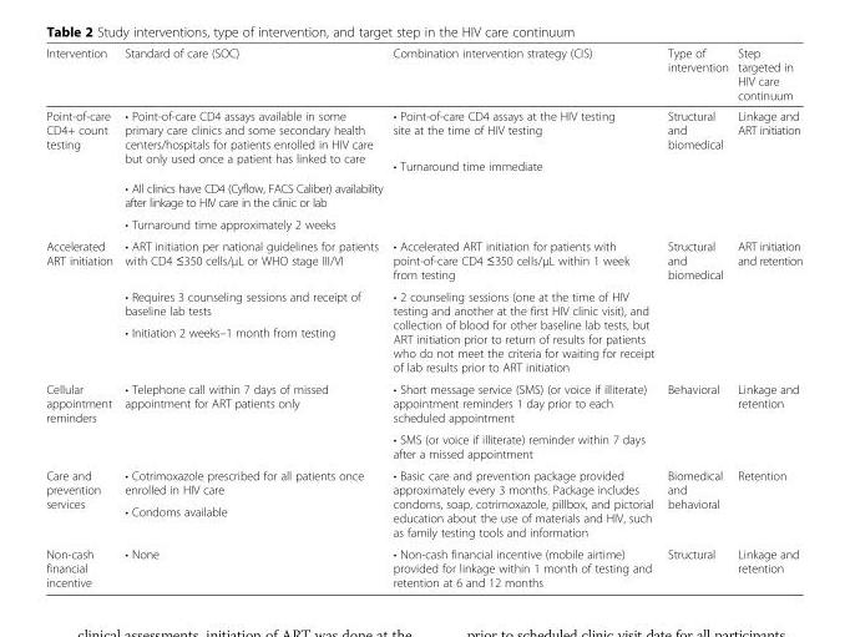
<table><thead><tr><td>Intervention</td><td>Standard of care (SOC)</td><td>Combination intervention strategy (CIS)</td><td>Type of intervention</td><td>Step targeted in HIV care continuum</td></tr></thead><tbody><tr><td rowspan="4">Point-of-care CD4+ count testing</td><td rowspan="2">• Point-of-care CD4 assays available in some primary care clinics and some secondary health centers/hospitals for patients enrolled in HIV care but only used once a patient has linked to care</td><td>• Point-of-care CD4 assays at the HIV testing site at the time of HIV testing</td><td>Structural and biomedical</td><td>Linkage and ART initiation</td></tr><tr><td>• Turnaround time immediate</td><td></td><td></td></tr><tr><td>• All clinics have CD4 (Cyflow, FACS Caliber) availability after linkage to HIV care in the clinic or lab</td><td></td><td></td><td></td></tr><tr><td>• Turnaround time approximately 2 weeks</td><td></td><td></td><td></td></tr><tr><td rowspan="3">Accelerated ART initiation</td><td>• ART initiation per national guidelines for patients with CD4 ≤350 cells/μL or WHO stage III/VI</td><td>• Accelerated ART initiation for patients with point-of-care CD4 ≤350 cells/μL within 1 week from testing</td><td>Structural and biomedical</td><td>ART initiation and retention</td></tr><tr><td>• Requires 3 counseling sessions and receipt of baseline lab tests</td><td rowspan="2">• 2 counseling sessions (one at the time of HIV testing and another at the first HIV clinic visit), and collection of blood for other baseline lab tests, but ART initiation prior to return of results for patients who do not meet the criteria for waiting for receipt of lab results prior to ART initiation</td><td rowspan="2"></td><td rowspan="2"></td></tr><tr><td>• Initiation 2 weeks–1 month from testing</td></tr><tr><td rowspan="2">Cellular appointment reminders</td><td>• Telephone call within 7 days of missed appointment for ART patients only</td><td>• Short message service (SMS) (or voice if illiterate) appointment reminders 1 day prior to each scheduled appointment</td><td>Behavioral</td><td>Linkage and retention</td></tr><tr><td></td><td>• SMS (or voice if illiterate) reminder within 7 days after a missed appointment</td><td></td><td></td></tr><tr><td rowspan="2">Care and prevention services</td><td>• Cotrimoxazole prescribed for all patients once enrolled in HIV care</td><td rowspan="2">• Basic care and prevention package provided approximately every 3 months. Package includes condoms, soap, cotrimoxazole, pillbox, and pictorial education about the use of materials and HIV, such as family testing tools and information</td><td rowspan="2">Biomedical and behavioral</td><td rowspan="2">Retention</td></tr><tr><td>• Condoms available</td></tr><tr><td>Non-cash financial incentive</td><td>• None</td><td>• Non-cash financial incentive (mobile airtime) provided for linkage within 1 month of testing and retention at 6 and 12 months</td><td>Structural</td><td>Linkage and retention</td></tr></tbody></table>